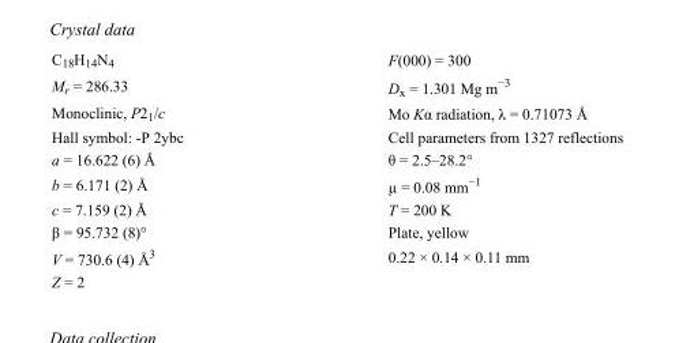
<table><tbody><tr><td>C<sub>18</sub>H<sub>14</sub>N<sub>4</sub></td><td>F(000) = 300</td></tr><tr><td>M<sub>r</sub> = 286.33</td><td>D<sub>x</sub> = 1.301 Mg m<sup>−3</sup></td></tr><tr><td>Monoclinic, P2<sub>1</sub>/c</td><td>Mo Kα radiation, λ = 0.71073 Å</td></tr><tr><td>Hall symbol: -P 2ybc</td><td>Cell parameters from 1327 reflections</td></tr><tr><td>a = 16.622 (6) Å</td><td>θ = 2.5–28.2°</td></tr><tr><td>b = 6.171 (2) Å</td><td>µ = 0.08 mm<sup>−1</sup></td></tr><tr><td>c = 7.159 (2) Å</td><td>T = 200 K</td></tr><tr><td>β = 95.732 (8)°</td><td>Plate, yellow</td></tr><tr><td>V = 730.6 (4) Å<sup>3</sup></td><td>0.22 × 0.14 × 0.11 mm</td></tr><tr><td>Z = 2</td><td></td></tr></tbody></table>